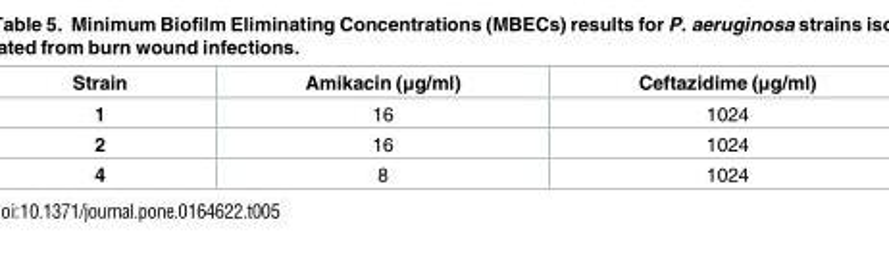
<table><thead><tr><td>Strain</td><td>Amikacin (μg/ml)</td><td>Ceftazidime (μg/ml)</td></tr></thead><tbody><tr><td>1</td><td>16</td><td>1024</td></tr><tr><td>2</td><td>16</td><td>1024</td></tr><tr><td>4</td><td>8</td><td>1024</td></tr></tbody></table>